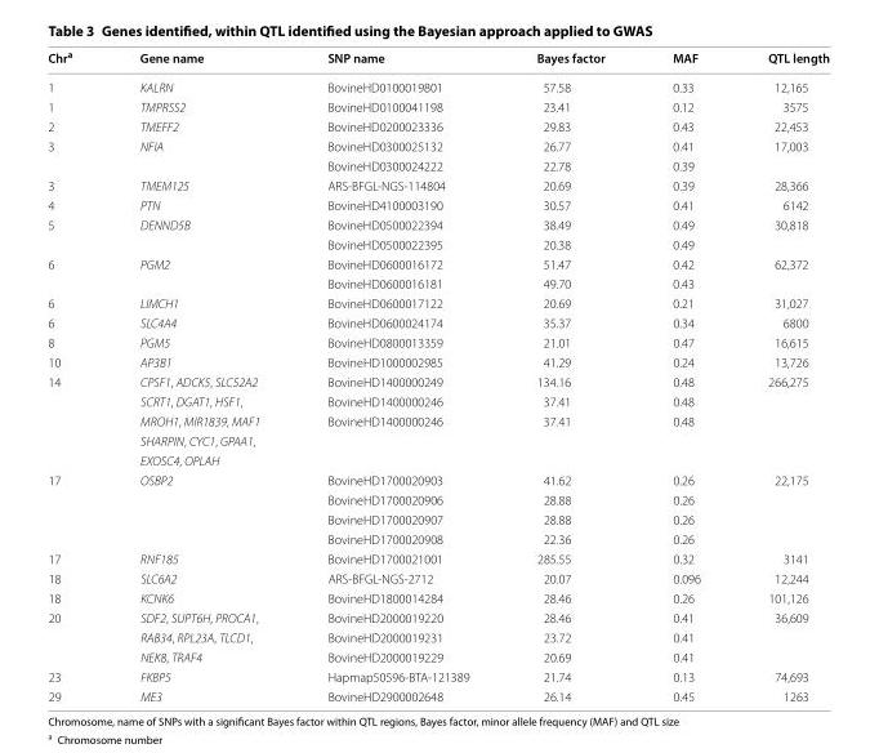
<table><thead><tr><td>Chr<sup>a</sup></td><td>Gene name</td><td>SNP name</td><td>Bayes factor</td><td>MAF</td><td>QTL length</td></tr></thead><tbody><tr><td>1</td><td>KALRN</td><td>BovineHD0100019801</td><td>57.58</td><td>0.33</td><td>12,165</td></tr><tr><td>1</td><td>TMPRSS2</td><td>BovineHD0100041198</td><td>23.41</td><td>0.12</td><td>3575</td></tr><tr><td>2</td><td>TMEFF2</td><td>BovineHD0200023336</td><td>29.83</td><td>0.43</td><td>22,453</td></tr><tr><td rowspan="2">3</td><td>NFIA</td><td>BovineHD0300025132</td><td>26.77</td><td>0.41</td><td>17,003</td></tr><tr><td></td><td>BovineHD0300024222</td><td>22.78</td><td>0.39</td><td></td></tr><tr><td>3</td><td>TMEM125</td><td>ARS-BFGL-NGS-114804</td><td>20.69</td><td>0.39</td><td>28,366</td></tr><tr><td>4</td><td>PTN</td><td>BovineHD4100003190</td><td>30.57</td><td>0.41</td><td>6142</td></tr><tr><td rowspan="2">5</td><td>DENND5B</td><td>BovineHD0500022394</td><td>38.49</td><td>0.49</td><td>30,818</td></tr><tr><td></td><td>BovineHD0500022395</td><td>20.38</td><td>0.49</td><td></td></tr><tr><td rowspan="2">6</td><td>PGM2</td><td>BovineHD0600016172</td><td>51.47</td><td>0.42</td><td>62,372</td></tr><tr><td></td><td>BovineHD0600016181</td><td>49.70</td><td>0.43</td><td></td></tr><tr><td>6</td><td>LIMCH1</td><td>BovineHD0600017122</td><td>20.69</td><td>0.21</td><td>31,027</td></tr><tr><td>6</td><td>SLC4A4</td><td>BovineHD0600024174</td><td>35.37</td><td>0.34</td><td>6800</td></tr><tr><td>8</td><td>PGM5</td><td>BovineHD0800013359</td><td>21.01</td><td>0.47</td><td>16,615</td></tr><tr><td>10</td><td>AP3B1</td><td>BovineHD1000002985</td><td>41.29</td><td>0.24</td><td>13,726</td></tr><tr><td rowspan="5">14</td><td>CPSF1, ADCK5, SLC52A2</td><td>BovineHD1400000249</td><td>134.16</td><td>0.48</td><td>266,275</td></tr><tr><td>SCRT1, DGAT1, HSF1,</td><td>BovineHD1400000246</td><td>37.41</td><td>0.48</td><td></td></tr><tr><td>MROH1, MIR1839, MAF1</td><td>BovineHD1400000246</td><td>37.41</td><td>0.48</td><td></td></tr><tr><td>SHARPIN, CYC1, GPAA1,</td><td></td><td></td><td></td><td></td></tr><tr><td>EXOSC4, OPLAH</td><td></td><td></td><td></td><td></td></tr><tr><td rowspan="4">17</td><td>OSBP2</td><td>BovineHD1700020903</td><td>41.62</td><td>0.26</td><td>22,175</td></tr><tr><td></td><td>BovineHD1700020906</td><td>28.88</td><td>0.26</td><td></td></tr><tr><td></td><td>BovineHD1700020907</td><td>28.88</td><td>0.26</td><td></td></tr><tr><td></td><td>BovineHD1700020908</td><td>22.36</td><td>0.26</td><td></td></tr><tr><td>17</td><td>RNF185</td><td>BovineHD1700021001</td><td>285.55</td><td>0.32</td><td>3141</td></tr><tr><td>18</td><td>SLC6A2</td><td>ARS-BFGL-NGS-2712</td><td>20.07</td><td>0.096</td><td>12,244</td></tr><tr><td>18</td><td>KCNK6</td><td>BovineHD1800014284</td><td>28.46</td><td>0.26</td><td>101,126</td></tr><tr><td rowspan="3">20</td><td>SDF2, SUPT6H, PROCA1,</td><td>BovineHD2000019220</td><td>28.46</td><td>0.41</td><td>36,609</td></tr><tr><td>RAB34, RPL23A, TLCD1,</td><td>BovineHD2000019231</td><td>23.72</td><td>0.41</td><td></td></tr><tr><td>NEK8, TRAF4</td><td>BovineHD2000019229</td><td>20.69</td><td>0.41</td><td></td></tr><tr><td>23</td><td>FKBP5</td><td>Hapmap50596-BTA-121389</td><td>21.74</td><td>0.13</td><td>74,693</td></tr><tr><td>29</td><td>ME3</td><td>BovineHD2900002648</td><td>26.14</td><td>0.45</td><td>1263</td></tr></tbody></table>